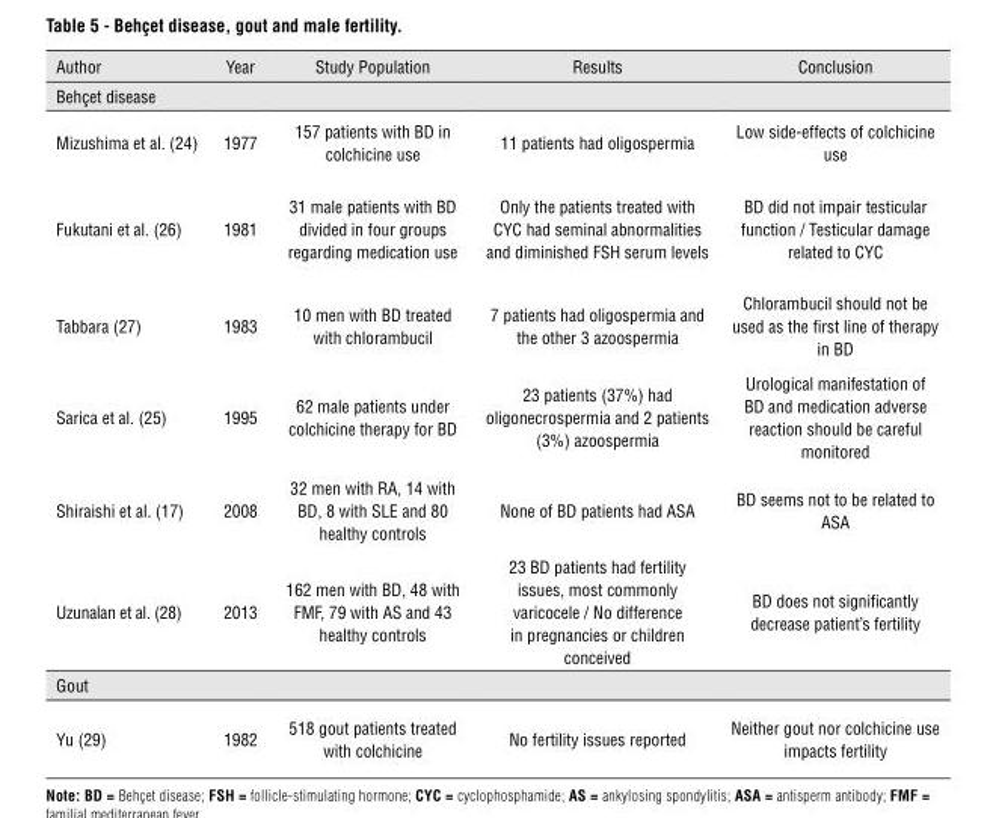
<table><thead><tr><td>Author</td><td>Year</td><td>Study Population</td><td>Results</td><td>Conclusion</td></tr></thead><tbody><tr><td colspan="5">Behçet disease</td></tr><tr><td>Mizushima et al. (24)</td><td>1977</td><td>157 patients with BD in colchicine use</td><td>11 patients had oligospermia</td><td>Low side-effects of colchicine use</td></tr><tr><td>Fukutani et al. (26)</td><td>1981</td><td>31 male patients with BD divided in four groups regarding medication use</td><td>Only the patients treated with CYC had seminal abnormalities and diminished FSH serum levels</td><td>BD did not impair testicular function / Testicular damage related to CYC</td></tr><tr><td>Tabbara (27)</td><td>1983</td><td>10 men with BD treated with chlorambucil</td><td>7 patients had oligospermia and the other 3 azoospermia</td><td>Chlorambucil should not be used as the first line of therapy in BD</td></tr><tr><td>Sarica et al. (25)</td><td>1995</td><td>62 male patients under colchicine therapy for BD</td><td>23 patients (37%) had oligonecrospermia and 2 patients (3%) azoospermia</td><td>Urological manifestation of BD and medication adverse reaction should be careful monitored</td></tr><tr><td>Shiraishi et al. (17)</td><td>2008</td><td>32 men with RA, 14 with BD, 8 with SLE and 80 healthy controls</td><td>None of BD patients had ASA</td><td>BD seems not to be related to ASA</td></tr><tr><td>Uzunalan et al. (28)</td><td>2013</td><td>162 men with BD, 48 with FMF, 79 with AS and 43 healthy controls</td><td>23 BD patients had fertility issues, most commonly varicocele / No difference in pregnancies or children conceived</td><td>BD does not significantly decrease patient’s fertility</td></tr><tr><td colspan="5">Gout</td></tr><tr><td>Yu (29)</td><td>1982</td><td>518 gout patients treated with colchicine</td><td>No fertility issues reported</td><td>Neither gout nor colchicine use impacts fertility</td></tr></tbody></table>